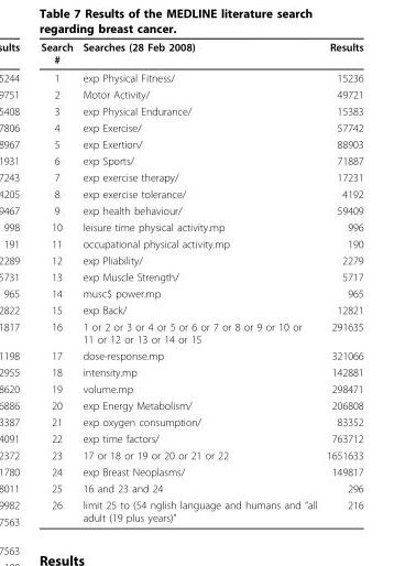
<table><thead><tr><td>Search #</td><td>Searches (28 Feb 2008)</td><td>Results</td></tr></thead><tbody><tr><td>1</td><td>exp Physical Fitness/</td><td>15236</td></tr><tr><td>2</td><td>Motor Activity/</td><td>49721</td></tr><tr><td>3</td><td>exp Physical Endurance/</td><td>15383</td></tr><tr><td>4</td><td>exp Exercise/</td><td>57742</td></tr><tr><td>5</td><td>exp Exertion/</td><td>88903</td></tr><tr><td>6</td><td>exp Sports/</td><td>71887</td></tr><tr><td>7</td><td>exp exercise therapy/</td><td>17231</td></tr><tr><td>8</td><td>exp exercise tolerance/</td><td>4192</td></tr><tr><td>9</td><td>exp health behaviour/</td><td>59409</td></tr><tr><td>10</td><td>leisure time physical activity.mp</td><td>996</td></tr><tr><td>11</td><td>occupational physical activity.mp</td><td>190</td></tr><tr><td>12</td><td>exp Pliability/</td><td>2279</td></tr><tr><td>13</td><td>exp Muscle Strength/</td><td>5717</td></tr><tr><td>14</td><td>musc$ power.mp</td><td>965</td></tr><tr><td>15</td><td>exp Back/</td><td>12821</td></tr><tr><td>16</td><td>1 or 2 or 3 or 4 or 5 or 6 or 7 or 8 or 9 or 10 or 11 or 12 or 13 or 14 or 15</td><td>291635</td></tr><tr><td>17</td><td>dose-response.mp</td><td>321066</td></tr><tr><td>18</td><td>intensity.mp</td><td>142881</td></tr><tr><td>19</td><td>volume.mp</td><td>298471</td></tr><tr><td>20</td><td>exp Energy Metabolism/</td><td>206808</td></tr><tr><td>21</td><td>exp oxygen consumption/</td><td>83352</td></tr><tr><td>22</td><td>exp time factors/</td><td>763712</td></tr><tr><td>23</td><td>17 or 18 or 19 or 20 or 21 or 22</td><td>1651633</td></tr><tr><td>24</td><td>exp Breast Neoplasms/</td><td>149817</td></tr><tr><td>25</td><td>16 and 23 and 24</td><td>296</td></tr><tr><td>26</td><td>limit 25 to (54 nglish language and humans and “all adult (19 plus years)”</td><td>216</td></tr></tbody></table>